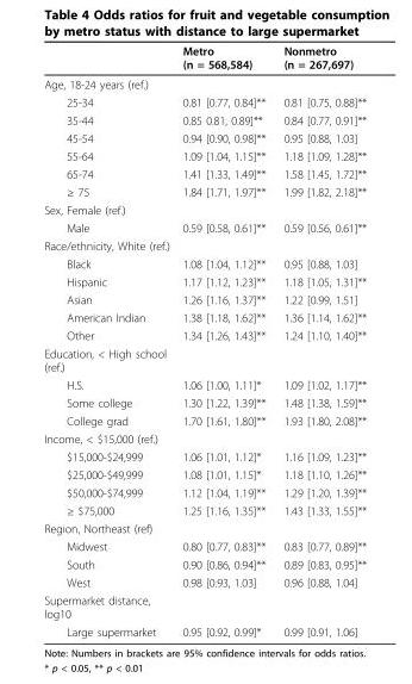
<table><thead><tr><td></td><td>Metro (n = 568,584)</td><td>Nonmetro (n = 267,697)</td></tr></thead><tbody><tr><td colspan="3">Age, 18-24 years (ref.)</td></tr><tr><td>25-34</td><td>0.81 [0.77, 0.84]**</td><td>0.81 [0.75, 0.88]**</td></tr><tr><td>35-44</td><td>0.85 0.81, 0.89]**</td><td>0.84 [0.77, 0.91]**</td></tr><tr><td>45-54</td><td>0.94 [0.90, 0.98]**</td><td>0.95 [0.88, 1.03]</td></tr><tr><td>55-64</td><td>1.09 [1.04, 1.15]**</td><td>1.18 [1.09, 1.28]**</td></tr><tr><td>65-74</td><td>1.41 [1.33, 1.49]**</td><td>1.58 [1.45, 1.72]**</td></tr><tr><td>≥ 75</td><td>1.84 [1.71, 1.97]**</td><td>1.99 [1.82, 2.18]**</td></tr><tr><td colspan="3">Sex, Female (ref.)</td></tr><tr><td>Male</td><td>0.59 [0.58, 0.61]**</td><td>0.59 [0.56, 0.61]**</td></tr><tr><td colspan="3">Race/ethnicity, White (ref.)</td></tr><tr><td>Black</td><td>1.08 [1.04, 1.12]**</td><td>0.95 [0.88, 1.03]</td></tr><tr><td>Hispanic</td><td>1.17 [1.12, 1.23]**</td><td>1.18 [1.05, 1.31]**</td></tr><tr><td>Asian</td><td>1.26 [1.16, 1.37]**</td><td>1.22 [0.99, 1.51]</td></tr><tr><td>American Indian</td><td>1.38 [1.18, 1.62]**</td><td>1.36 [1.14, 1.62]**</td></tr><tr><td>Other</td><td>1.34 [1.26, 1.43]**</td><td>1.24 [1.10, 1.40]**</td></tr><tr><td colspan="3">Education, &lt; High school (ref.)</td></tr><tr><td>H.S.</td><td>1.06 [1.00, 1.11]*</td><td>1.09 [1.02, 1.17]**</td></tr><tr><td>Some college</td><td>1.30 [1.22, 1.39]**</td><td>1.48 [1.38, 1.59]**</td></tr><tr><td>College grad</td><td>1.70 [1.61, 1.80]**</td><td>1.93 [1.80, 2.08]**</td></tr><tr><td colspan="3">Income, &lt; $15,000 (ref.)</td></tr><tr><td>$15,000-$24,999</td><td>1.06 [1.01, 1.12]*</td><td>1.16 [1.09, 1.23]**</td></tr><tr><td>$25,000-$49,999</td><td>1.08 [1.01, 1.15]*</td><td>1.18 [1.10, 1.26]**</td></tr><tr><td>$50,000-$74,999</td><td>1.12 [1.04, 1.19]**</td><td>1.29 [1.20, 1.39]**</td></tr><tr><td>≥ $75,000</td><td>1.25 [1.16, 1.35]**</td><td>1.43 [1.33, 1.55]**</td></tr><tr><td colspan="3">Region, Northeast (ref)</td></tr><tr><td>Midwest</td><td>0.80 [0.77, 0.83]**</td><td>0.83 [0.77, 0.89]**</td></tr><tr><td>South</td><td>0.90 [0.86, 0.94]**</td><td>0.89 [0.83, 0.95]**</td></tr><tr><td>West</td><td>0.98 [0.93, 1.03]</td><td>0.96 [0.88, 1.04]</td></tr><tr><td colspan="3">Supermarket distance, log10</td></tr><tr><td>Large supermarket</td><td>0.95 [0.92, 0.99]*</td><td>0.99 [0.91, 1.06]</td></tr></tbody></table>